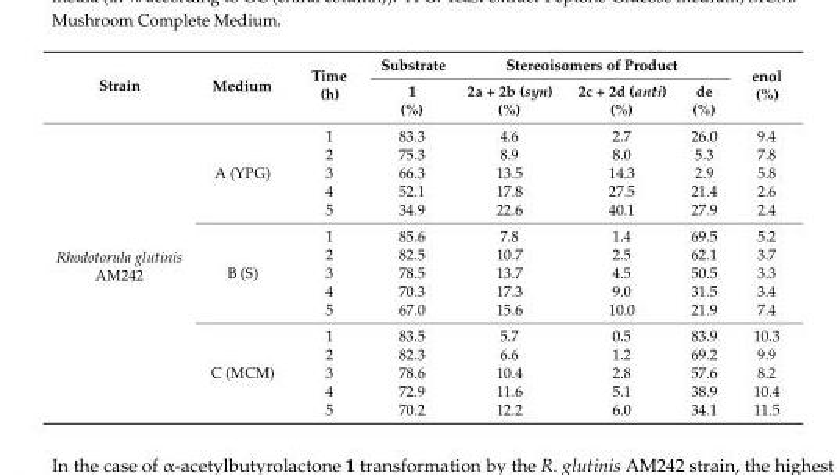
<table><thead><tr><td rowspan="2">Strain</td><td rowspan="2">Medium</td><td rowspan="2">Time (h)</td><td rowspan="2">Substrate 1 (%)</td><td colspan="3">Stereoisomers of Product</td><td rowspan="2">enol (%)</td></tr><tr><td>2a + 2b (syn) (%)</td><td>2c + 2d (anti) (%)</td><td>de (%)</td></tr></thead><tbody><tr><td rowspan="15">Rhodotorula glutinis AM242</td><td rowspan="5">A (YPG)</td><td>1</td><td>83.3</td><td>4.6</td><td>2.7</td><td>26.0</td><td>9.4</td></tr><tr><td>2</td><td>75.3</td><td>8.9</td><td>8.0</td><td>5.3</td><td>7.8</td></tr><tr><td>3</td><td>66.3</td><td>13.5</td><td>14.3</td><td>2.9</td><td>5.8</td></tr><tr><td>4</td><td>52.1</td><td>17.8</td><td>27.5</td><td>21.4</td><td>2.6</td></tr><tr><td>5</td><td>34.9</td><td>22.6</td><td>40.1</td><td>27.9</td><td>2.4</td></tr><tr><td rowspan="5">B (S)</td><td>1</td><td>85.6</td><td>7.8</td><td>1.4</td><td>69.5</td><td>5.2</td></tr><tr><td>2</td><td>82.5</td><td>10.7</td><td>2.5</td><td>62.1</td><td>3.7</td></tr><tr><td>3</td><td>78.5</td><td>13.7</td><td>4.5</td><td>50.5</td><td>3.3</td></tr><tr><td>4</td><td>70.3</td><td>17.3</td><td>9.0</td><td>31.5</td><td>3.4</td></tr><tr><td>5</td><td>67.0</td><td>15.6</td><td>10.0</td><td>21.9</td><td>7.4</td></tr><tr><td rowspan="5">C (MCM)</td><td>1</td><td>83.5</td><td>5.7</td><td>0.5</td><td>83.9</td><td>10.3</td></tr><tr><td>2</td><td>82.3</td><td>6.6</td><td>1.2</td><td>69.2</td><td>9.9</td></tr><tr><td>3</td><td>78.6</td><td>10.4</td><td>2.8</td><td>57.6</td><td>8.2</td></tr><tr><td>4</td><td>72.9</td><td>11.6</td><td>5.1</td><td>38.9</td><td>10.4</td></tr><tr><td>5</td><td>70.2</td><td>12.2</td><td>6.0</td><td>34.1</td><td>11.5</td></tr></tbody></table>